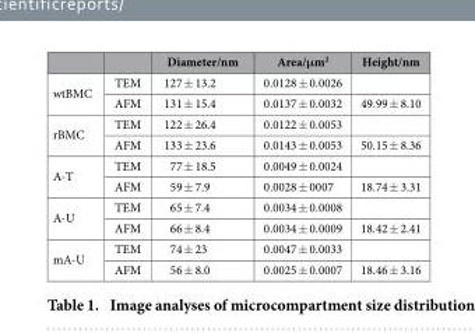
<table><thead><tr><td></td><td></td><td>Diameter/nm</td><td>Area/μm<sup>2</sup></td><td>Height/nm</td></tr></thead><tbody><tr><td rowspan="2">wtBMC</td><td>TEM</td><td>127 ± 13.2</td><td>0.0128 ± 0.0026</td><td></td></tr><tr><td>AFM</td><td>131 ± 15.4</td><td>0.0137 ± 0.0032</td><td>49.99 ± 8.10</td></tr><tr><td rowspan="2">rBMC</td><td>TEM</td><td>122 ± 26.4</td><td>0.0122 ± 0.0053</td><td></td></tr><tr><td>AFM</td><td>133 ± 23.6</td><td>0.0143 ± 0.0053</td><td>50.15 ± 8.36</td></tr><tr><td rowspan="2">A-T</td><td>TEM</td><td>77 ± 18.5</td><td>0.0049 ± 0.0024</td><td></td></tr><tr><td>AFM</td><td>59 ± 7.9</td><td>0.0028 ± 0007</td><td>18.74 ± 3.31</td></tr><tr><td rowspan="2">A-U</td><td>TEM</td><td>65 ± 7.4</td><td>0.0034 ± 0.0008</td><td></td></tr><tr><td>AFM</td><td>66 ± 8.4</td><td>0.0034 ± 0.0009</td><td>18.42 ± 2.41</td></tr><tr><td rowspan="2">mA-U</td><td>TEM</td><td>74 ± 23</td><td>0.0047 ± 0.0033</td><td></td></tr><tr><td>AFM</td><td>56 ± 8.0</td><td>0.0025 ± 0.0007</td><td>18.46 ± 3.16</td></tr></tbody></table>